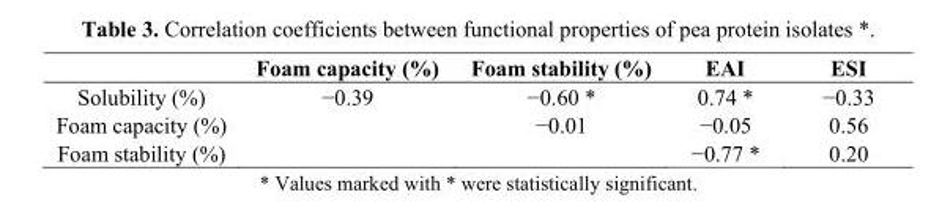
<table><thead><tr><td></td><td>Foam capacity (%)</td><td>Foam stability (%)</td><td>EAI</td><td>ESI</td></tr></thead><tbody><tr><td>Solubility (%)</td><td>−0.39</td><td>−0.60 *</td><td>0.74 *</td><td>−0.33</td></tr><tr><td>Foam capacity (%)</td><td></td><td>−0.01</td><td>−0.05</td><td>0.56</td></tr><tr><td>Foam stability (%)</td><td></td><td></td><td>−0.77 *</td><td>0.20</td></tr></tbody></table>